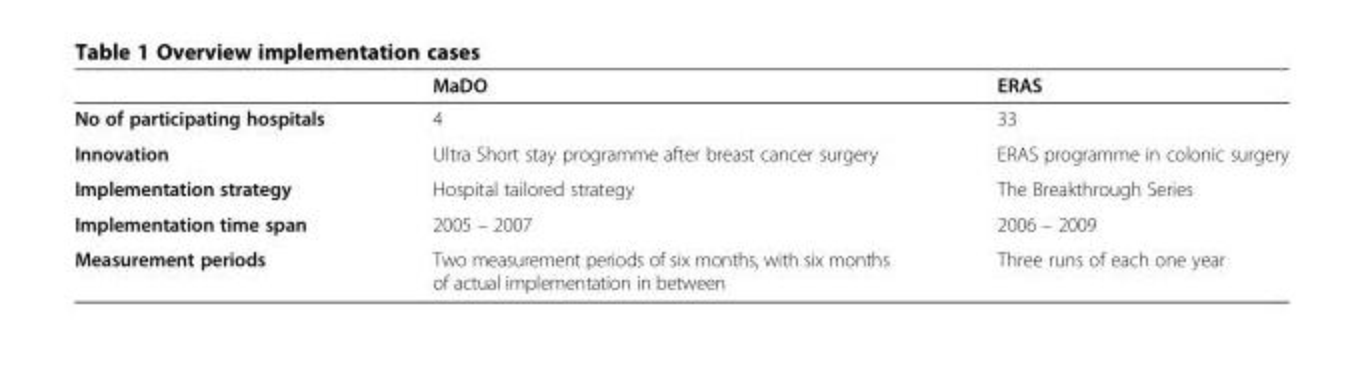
<table><thead><tr><td></td><td>MaDO</td><td>ERAS</td></tr></thead><tbody><tr><td>No of participating hospitals</td><td>4</td><td>33</td></tr><tr><td>Innovation</td><td>Ultra Short stay programme after breast cancer surgery</td><td>ERAS programme in colonic surgery</td></tr><tr><td>Implementation strategy</td><td>Hospital tailored strategy</td><td>The Breakthrough Series</td></tr><tr><td>Implementation time span</td><td>2005 – 2007</td><td>2006 – 2009</td></tr><tr><td>Measurement periods</td><td>Two measurement periods of six months, with six months of actual implementation in between</td><td>Three runs of each one year</td></tr></tbody></table>